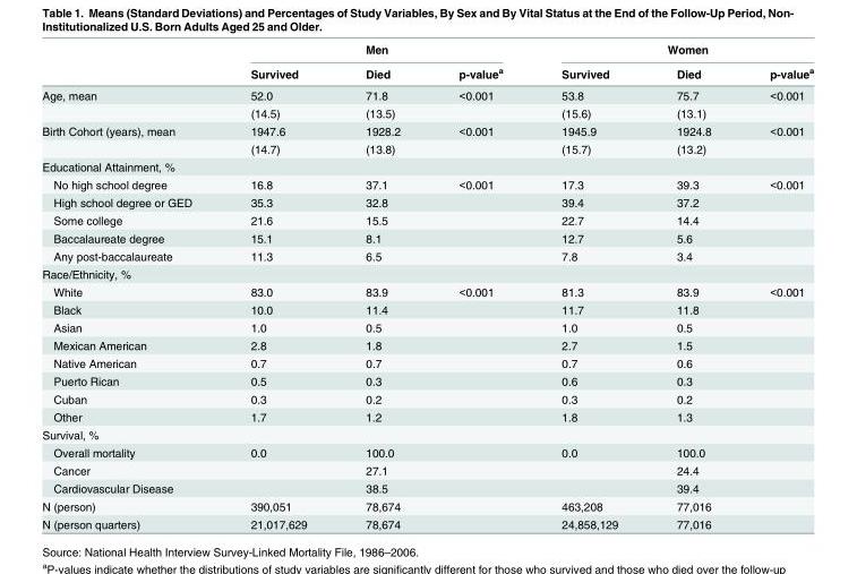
<table><thead><tr><td rowspan="2"></td><td colspan="3">Men</td><td colspan="3">Women</td></tr><tr><td>Survived</td><td>Died</td><td>p-value<sup>a</sup></td><td>Survived</td><td>Died</td><td>p-value<sup>a</sup></td></tr></thead><tbody><tr><td rowspan="2">Age, mean</td><td>52.0</td><td>71.8</td><td>&lt;0.001</td><td>53.8</td><td>75.7</td><td>&lt;0.001</td></tr><tr><td>(14.5)</td><td>(13.5)</td><td></td><td>(15.6)</td><td>(13.1)</td><td></td></tr><tr><td rowspan="2">Birth Cohort (years), mean</td><td>1947.6</td><td>1928.2</td><td>&lt;0.001</td><td>1945.9</td><td>1924.8</td><td>&lt;0.001</td></tr><tr><td>(14.7)</td><td>(13.8)</td><td></td><td>(15.7)</td><td>(13.2)</td><td></td></tr><tr><td colspan="7">Educational Attainment, %</td></tr><tr><td>No high school degree</td><td>16.8</td><td>37.1</td><td>&lt;0.001</td><td>17.3</td><td>39.3</td><td>&lt;0.001</td></tr><tr><td>High school degree or GED</td><td>35.3</td><td>32.8</td><td></td><td>39.4</td><td>37.2</td><td></td></tr><tr><td>Some college</td><td>21.6</td><td>15.5</td><td></td><td>22.7</td><td>14.4</td><td></td></tr><tr><td>Baccalaureate degree</td><td>15.1</td><td>8.1</td><td></td><td>12.7</td><td>5.6</td><td></td></tr><tr><td>Any post-baccalaureate</td><td>11.3</td><td>6.5</td><td></td><td>7.8</td><td>3.4</td><td></td></tr><tr><td colspan="7">Race/Ethnicity, %</td></tr><tr><td>White</td><td>83.0</td><td>83.9</td><td>&lt;0.001</td><td>81.3</td><td>83.9</td><td>&lt;0.001</td></tr><tr><td>Black</td><td>10.0</td><td>11.4</td><td></td><td>11.7</td><td>11.8</td><td></td></tr><tr><td>Asian</td><td>1.0</td><td>0.5</td><td></td><td>1.0</td><td>0.5</td><td></td></tr><tr><td>Mexican American</td><td>2.8</td><td>1.8</td><td></td><td>2.7</td><td>1.5</td><td></td></tr><tr><td>Native American</td><td>0.7</td><td>0.7</td><td></td><td>0.7</td><td>0.6</td><td></td></tr><tr><td>Puerto Rican</td><td>0.5</td><td>0.3</td><td></td><td>0.6</td><td>0.3</td><td></td></tr><tr><td>Cuban</td><td>0.3</td><td>0.2</td><td></td><td>0.3</td><td>0.2</td><td></td></tr><tr><td>Other</td><td>1.7</td><td>1.2</td><td></td><td>1.8</td><td>1.3</td><td></td></tr><tr><td colspan="7">Survival, %</td></tr><tr><td>Overall mortality</td><td>0.0</td><td>100.0</td><td></td><td>0.0</td><td>100.0</td><td></td></tr><tr><td>Cancer</td><td></td><td>27.1</td><td></td><td></td><td>24.4</td><td></td></tr><tr><td>Cardiovascular Disease</td><td></td><td>38.5</td><td></td><td></td><td>39.4</td><td></td></tr><tr><td>N (person)</td><td>390,051</td><td>78,674</td><td></td><td>463,208</td><td>77,016</td><td></td></tr><tr><td>N (person quarters)</td><td>21,017,629</td><td>78,674</td><td></td><td>24,858,129</td><td>77,016</td><td></td></tr></tbody></table>